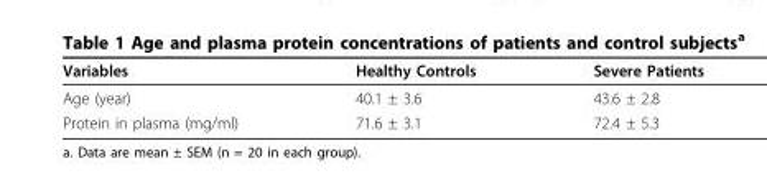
<table><thead><tr><td>Variables</td><td>Healthy Controls</td><td>Severe Patients</td></tr></thead><tbody><tr><td>Age (year)</td><td>40.1 ± 3.6</td><td>43.6 ± 2.8</td></tr><tr><td>Protein in plasma (mg/ml)</td><td>71.6 ± 3.1</td><td>72.4 ± 5.3</td></tr></tbody></table>